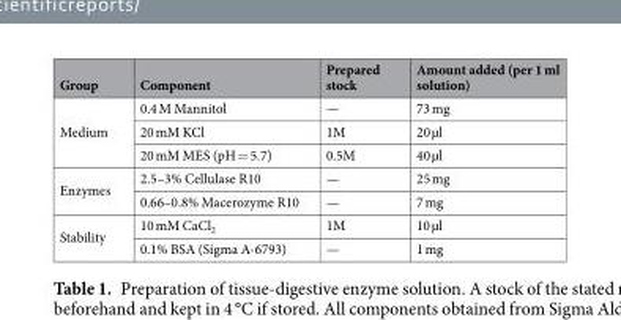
<table><thead><tr><td>Group</td><td>Component</td><td>Prepared stock</td><td>Amount added (per 1 ml solution)</td></tr></thead><tbody><tr><td rowspan="3">Medium</td><td>0.4 M Mannitol</td><td>—</td><td>73 mg</td></tr><tr><td>20 mM KCl</td><td>1M</td><td>20 µl</td></tr><tr><td>20 mM MES (pH = 5.7)</td><td>0.5M</td><td>40 µl</td></tr><tr><td rowspan="2">Enzymes</td><td>2.5–3% Cellulase R10</td><td>—</td><td>25 mg</td></tr><tr><td>0.66–0.8% Macerozyme R10</td><td>—</td><td>7 mg</td></tr><tr><td rowspan="2">Stability</td><td>10 mM CaCl<sub>2</sub></td><td>1M</td><td>10 µl</td></tr><tr><td>0.1% BSA (Sigma A-6793)</td><td>—</td><td>1 mg</td></tr></tbody></table>